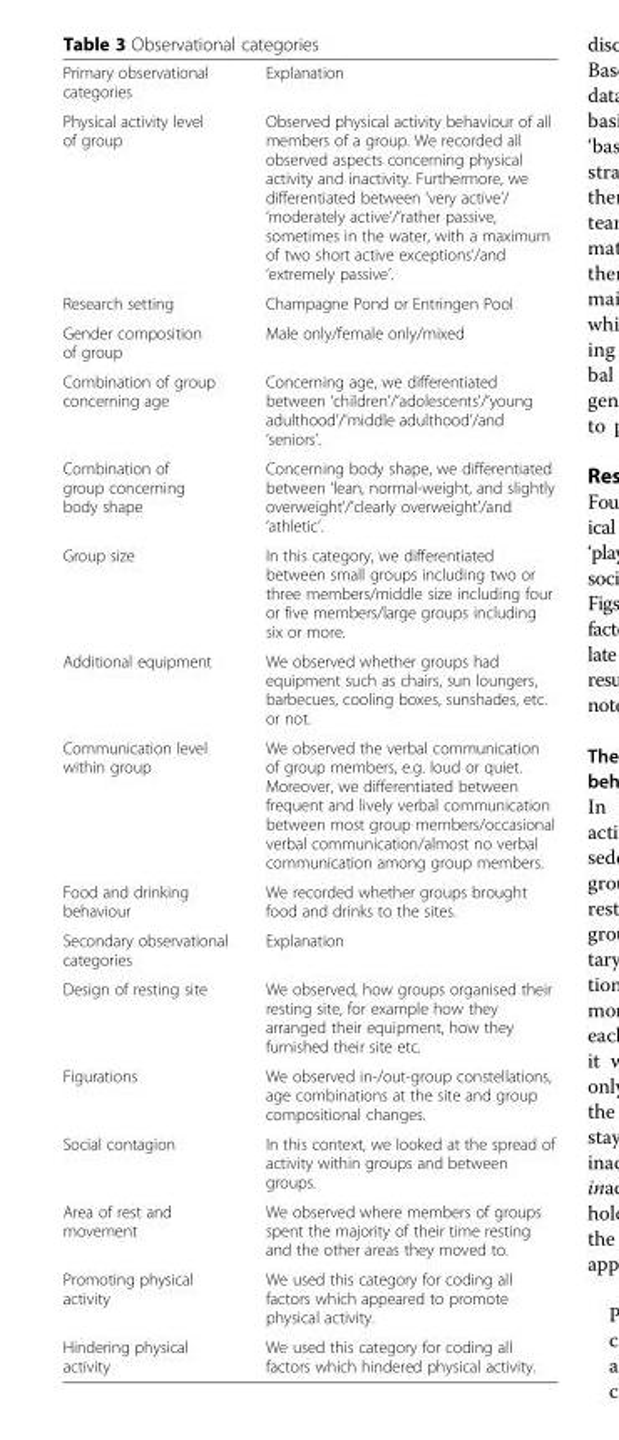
<table><tbody><tr><td>Primary observational categories</td><td>Explanation</td></tr><tr><td>Physical activity level of group</td><td>Observed physical activity behaviour of all members of a group. We recorded all observed aspects concerning physical activity and inactivity. Furthermore, we differentiated between ‘very active’/ ‘moderately active’/‘rather passive, sometimes in the water, with a maximum of two short active exceptions’/and ‘extremely passive’.</td></tr><tr><td>Research setting</td><td>Champagne Pond or Entringen Pool</td></tr><tr><td>Gender composition of group</td><td>Male only/female only/mixed</td></tr><tr><td>Combination of group concerning age</td><td>Concerning age, we differentiated between ‘children’/‘adolescents’/‘young adulthood’/‘middle adulthood’/and ‘seniors’.</td></tr><tr><td>Combination of group concerning body shape</td><td>Concerning body shape, we differentiated between ‘lean, normal-weight, and slightly overweight’/‘clearly overweight’/and ‘athletic’.</td></tr><tr><td>Group size</td><td>In this category, we differentiated between small groups including two or three members/middle size including four or five members/large groups including six or more.</td></tr><tr><td>Additional equipment</td><td>We observed whether groups had equipment such as chairs, sun loungers, barbecues, cooling boxes, sunshades, etc. or not.</td></tr><tr><td>Communication level within group</td><td>We observed the verbal communication of group members, e.g. loud or quiet. Moreover, we differentiated between frequent and lively verbal communication between most group members/occasional verbal communication/almost no verbal communication among group members.</td></tr><tr><td>Food and drinking behaviour</td><td>We recorded whether groups brought food and drinks to the sites.</td></tr><tr><td>Secondary observational categories</td><td>Explanation</td></tr><tr><td>Design of resting site</td><td>We observed, how groups organised their resting site, for example how they arranged their equipment, how they furnished their site etc.</td></tr><tr><td>Figurations</td><td>We observed in-/out-group constellations, age combinations at the site and group compositional changes.</td></tr><tr><td>Social contagion</td><td>In this context, we looked at the spread of activity within groups and between groups.</td></tr><tr><td>Area of rest and movement</td><td>We observed where members of groups spent the majority of their time resting and the other areas they moved to.</td></tr><tr><td>Promoting physical activity</td><td>We used this category for coding all factors which appeared to promote physical activity.</td></tr><tr><td>Hindering physical activity</td><td>We used this category for coding all factors which hindered physical activity.</td></tr></tbody></table>